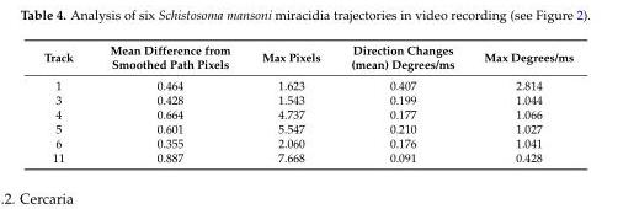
<table><thead><tr><td>Track</td><td>Mean Difference from Smoothed Path Pixels</td><td>Max Pixels</td><td>Direction Changes (mean) Degrees/ms</td><td>Max Degrees/ms</td></tr></thead><tbody><tr><td>1</td><td>0.464</td><td>1.623</td><td>0.407</td><td>2.814</td></tr><tr><td>3</td><td>0.428</td><td>1.543</td><td>0.199</td><td>1.044</td></tr><tr><td>4</td><td>0.664</td><td>4.737</td><td>0.177</td><td>1.066</td></tr><tr><td>5</td><td>0.601</td><td>5.547</td><td>0.210</td><td>1.027</td></tr><tr><td>6</td><td>0.355</td><td>2.060</td><td>0.176</td><td>1.041</td></tr><tr><td>11</td><td>0.887</td><td>7.668</td><td>0.091</td><td>0.428</td></tr></tbody></table>